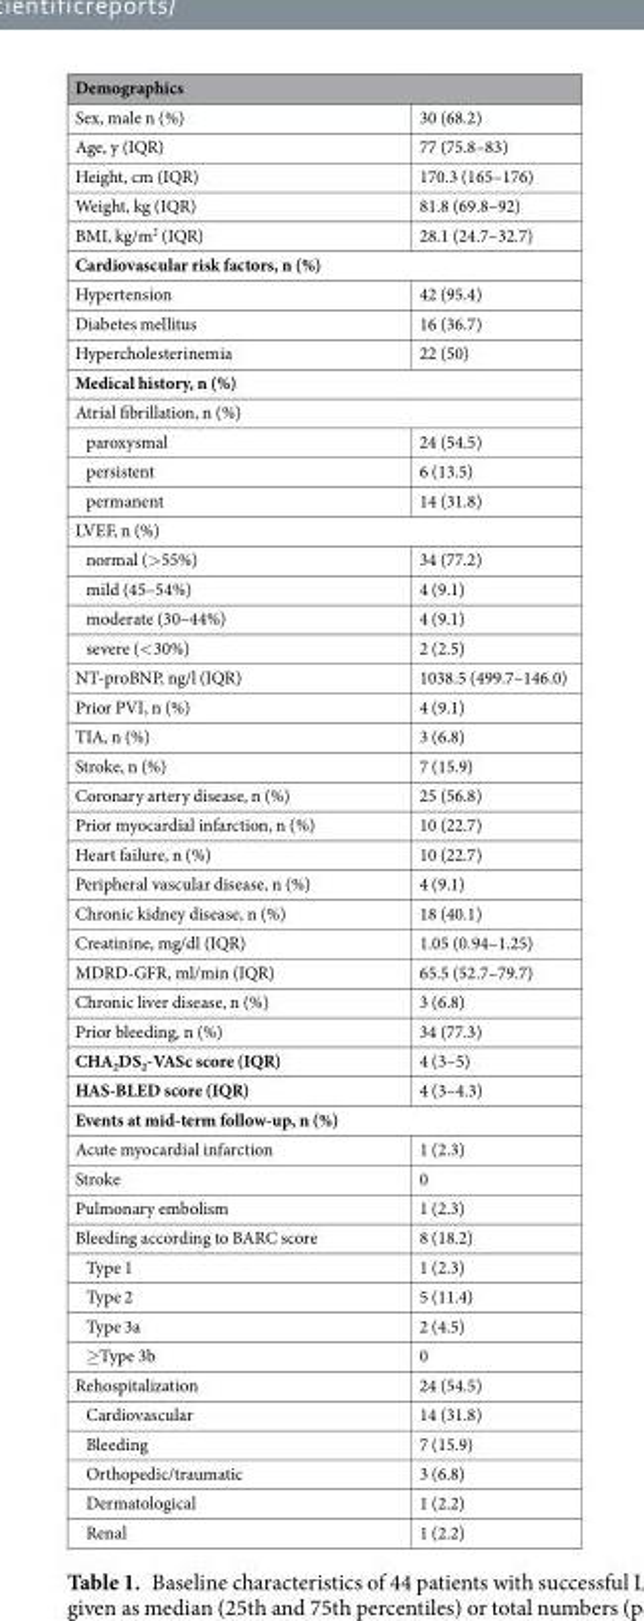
<table><thead><tr><td colspan="2">Demographics</td></tr><tr><td>Sex, male n (%)</td><td>30 (68.2)</td></tr></thead><tbody><tr><td>Age, y (IQR)</td><td>77 (75.8–83)</td></tr><tr><td>Height, cm (IQR)</td><td>170.3 (165–176)</td></tr><tr><td>Weight, kg (IQR)</td><td>81.8 (69.8–92)</td></tr><tr><td>BMI, kg/m<sup>2</sup> (IQR)</td><td>28.1 (24.7–32.7)</td></tr><tr><td colspan="2">Cardiovascular risk factors, n (%)</td></tr><tr><td>Hypertension</td><td>42 (95.4)</td></tr><tr><td>Diabetes mellitus</td><td>16 (36.7)</td></tr><tr><td>Hypercholesterinemia</td><td>22 (50)</td></tr><tr><td colspan="2">Medical history, n (%)</td></tr><tr><td colspan="2">Atrial fibrillation, n (%)</td></tr><tr><td>paroxysmal</td><td>24 (54.5)</td></tr><tr><td>persistent</td><td>6 (13.5)</td></tr><tr><td>permanent</td><td>14 (31.8)</td></tr><tr><td colspan="2">LVEF, n (%)</td></tr><tr><td>normal (&gt;55%)</td><td>34 (77.2)</td></tr><tr><td>mild (45–54%)</td><td>4 (9.1)</td></tr><tr><td>moderate (30–44%)</td><td>4 (9.1)</td></tr><tr><td>severe (&lt;30%)</td><td>2 (2.5)</td></tr><tr><td>NT-proBNP, ng/l (IQR)</td><td>1038.5 (499.7–146.0)</td></tr><tr><td>Prior PVI, n (%)</td><td>4 (9.1)</td></tr><tr><td>TIA, n (%)</td><td>3 (6.8)</td></tr><tr><td>Stroke, n (%)</td><td>7 (15.9)</td></tr><tr><td>Coronary artery disease, n (%)</td><td>25 (56.8)</td></tr><tr><td>Prior myocardial infarction, n (%)</td><td>10 (22.7)</td></tr><tr><td>Heart failure, n (%)</td><td>10 (22.7)</td></tr><tr><td>Peripheral vascular disease, n (%)</td><td>4 (9.1)</td></tr><tr><td>Chronic kidney disease, n (%)</td><td>18 (40.1)</td></tr><tr><td>Creatinine, mg/dl (IQR)</td><td>1.05 (0.94–1.25)</td></tr><tr><td>MDRD-GFR, ml/min (IQR)</td><td>65.5 (52.7–79.7)</td></tr><tr><td>Chronic liver disease, n (%)</td><td>3 (6.8)</td></tr><tr><td>Prior bleeding, n (%)</td><td>34 (77.3)</td></tr><tr><td>CHA<sub>2</sub>DS<sub>2</sub>-VASc score (IQR)</td><td>4 (3–5)</td></tr><tr><td>HAS-BLED score (IQR)</td><td>4 (3–4.3)</td></tr><tr><td colspan="2">Events at mid-term follow-up, n (%)</td></tr><tr><td>Acute myocardial infarction</td><td>1 (2.3)</td></tr><tr><td>Stroke</td><td>0</td></tr><tr><td>Pulmonary embolism</td><td>1 (2.3)</td></tr><tr><td>Bleeding according to BARC score</td><td>8 (18.2)</td></tr><tr><td>Type 1</td><td>1 (2.3)</td></tr><tr><td>Type 2</td><td>5 (11.4)</td></tr><tr><td>Type 3a</td><td>2 (4.5)</td></tr><tr><td>≥Type 3b</td><td>0</td></tr><tr><td>Rehospitalization</td><td>24 (54.5)</td></tr><tr><td>Cardiovascular</td><td>14 (31.8)</td></tr><tr><td>Bleeding</td><td>7 (15.9)</td></tr><tr><td>Orthopedic/traumatic</td><td>3 (6.8)</td></tr><tr><td>Dermatological</td><td>1 (2.2)</td></tr><tr><td>Renal</td><td>1 (2.2)</td></tr></tbody></table>